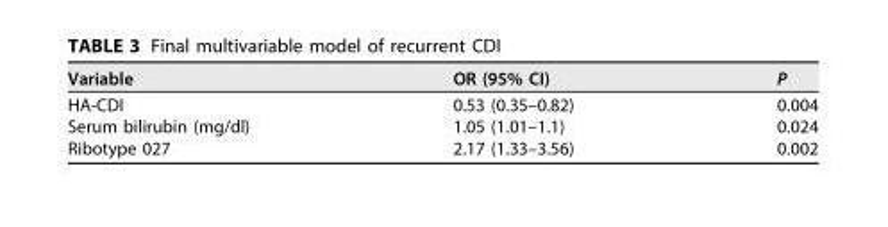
<table><thead><tr><td>Variable</td><td>OR (95% CI)</td><td>P</td></tr></thead><tbody><tr><td>HA-CDI</td><td>0.53 (0.35–0.82)</td><td>0.004</td></tr><tr><td>Serum bilirubin (mg/dl)</td><td>1.05 (1.01–1.1)</td><td>0.024</td></tr><tr><td>Ribotype 027</td><td>2.17 (1.33–3.56)</td><td>0.002</td></tr></tbody></table>